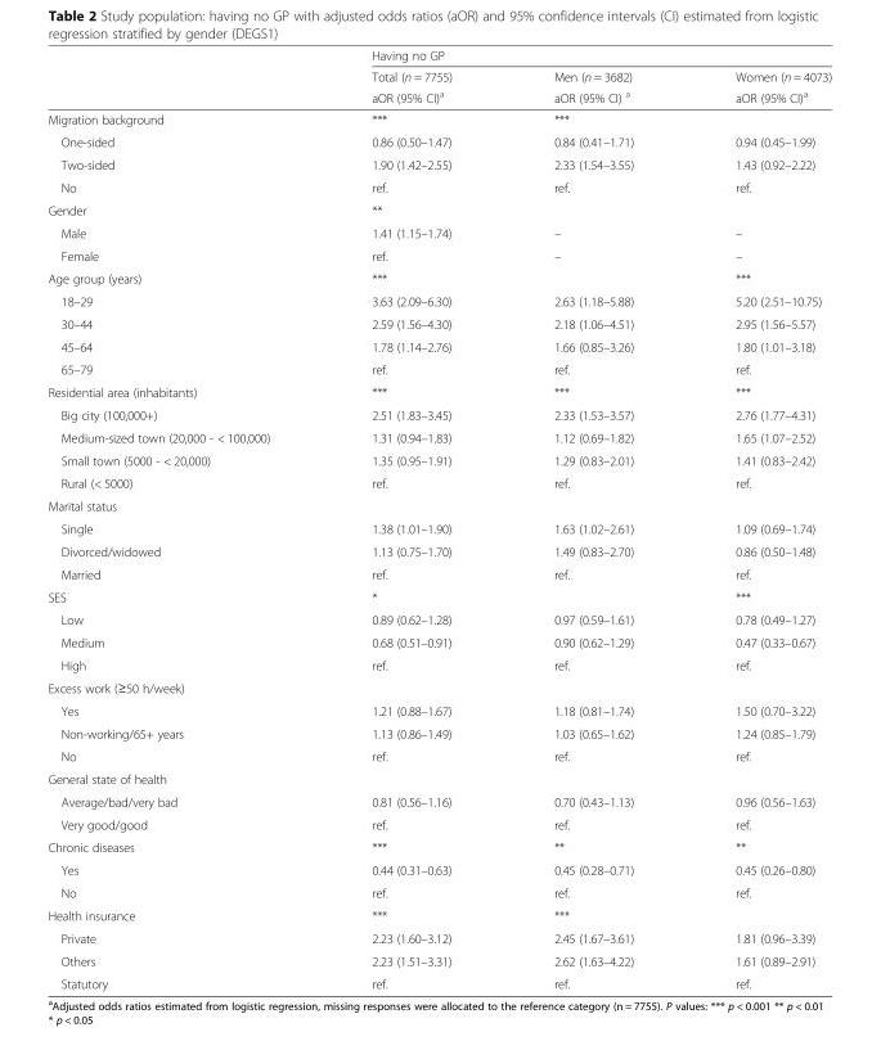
<table><thead><tr><td rowspan="3"></td><td colspan="3">Having no GP</td></tr><tr><td rowspan="2">Total (n = 7755) aOR (95% CI)<sup>a</sup></td><td rowspan="2">Men (n = 3682) aOR (95% CI) <sup>a</sup></td><td rowspan="2">Women (n = 4073) aOR (95% CI)<sup>a</sup></td></tr><tr></tr></thead><tbody><tr><td>Migration background</td><td>***</td><td>***</td><td></td></tr><tr><td>One-sided</td><td>0.86 (0.50–1.47)</td><td>0.84 (0.41–1.71)</td><td>0.94 (0.45–1.99)</td></tr><tr><td>Two-sided</td><td>1.90 (1.42–2.55)</td><td>2.33 (1.54–3.55)</td><td>1.43 (0.92–2.22)</td></tr><tr><td>No</td><td>ref.</td><td>ref.</td><td>ref.</td></tr><tr><td>Gender</td><td>**</td><td></td><td></td></tr><tr><td>Male</td><td>1.41 (1.15–1.74)</td><td>–</td><td>–</td></tr><tr><td>Female</td><td>ref.</td><td>–</td><td>–</td></tr><tr><td>Age group (years)</td><td>***</td><td></td><td>***</td></tr><tr><td>18–29</td><td>3.63 (2.09–6.30)</td><td>2.63 (1.18–5.88)</td><td>5.20 (2.51–10.75)</td></tr><tr><td>30–44</td><td>2.59 (1.56–4.30)</td><td>2.18 (1.06–4.51)</td><td>2.95 (1.56–5.57)</td></tr><tr><td>45–64</td><td>1.78 (1.14–2.76)</td><td>1.66 (0.85–3.26)</td><td>1.80 (1.01–3.18)</td></tr><tr><td>65–79</td><td>ref.</td><td>ref.</td><td>ref.</td></tr><tr><td>Residential area (inhabitants)</td><td>***</td><td>***</td><td>***</td></tr><tr><td>Big city (100,000+)</td><td>2.51 (1.83–3.45)</td><td>2.33 (1.53–3.57)</td><td>2.76 (1.77–4.31)</td></tr><tr><td>Medium-sized town (20,000 - &lt; 100,000)</td><td>1.31 (0.94–1.83)</td><td>1.12 (0.69–1.82)</td><td>1.65 (1.07–2.52)</td></tr><tr><td>Small town (5000 - &lt; 20,000)</td><td>1.35 (0.95–1.91)</td><td>1.29 (0.83–2.01)</td><td>1.41 (0.83–2.42)</td></tr><tr><td>Rural (&lt; 5000)</td><td>ref.</td><td>ref.</td><td>ref.</td></tr><tr><td colspan="4">Marital status</td></tr><tr><td>Single</td><td>1.38 (1.01–1.90)</td><td>1.63 (1.02–2.61)</td><td>1.09 (0.69–1.74)</td></tr><tr><td>Divorced/widowed</td><td>1.13 (0.75–1.70)</td><td>1.49 (0.83–2.70)</td><td>0.86 (0.50–1.48)</td></tr><tr><td>Married</td><td>ref.</td><td>ref.</td><td>ref.</td></tr><tr><td>SES</td><td>*</td><td></td><td>***</td></tr><tr><td>Low</td><td>0.89 (0.62–1.28)</td><td>0.97 (0.59–1.61)</td><td>0.78 (0.49–1.27)</td></tr><tr><td>Medium</td><td>0.68 (0.51–0.91)</td><td>0.90 (0.62–1.29)</td><td>0.47 (0.33–0.67)</td></tr><tr><td>High</td><td>ref.</td><td>ref.</td><td>ref.</td></tr><tr><td colspan="4">Excess work (≥50 h/week)</td></tr><tr><td>Yes</td><td>1.21 (0.88–1.67)</td><td>1.18 (0.81–1.74)</td><td>1.50 (0.70–3.22)</td></tr><tr><td>Non-working/65+ years</td><td>1.13 (0.86–1.49)</td><td>1.03 (0.65–1.62)</td><td>1.24 (0.85–1.79)</td></tr><tr><td>No</td><td>ref.</td><td>ref.</td><td>ref.</td></tr><tr><td colspan="4">General state of health</td></tr><tr><td>Average/bad/very bad</td><td>0.81 (0.56–1.16)</td><td>0.70 (0.43–1.13)</td><td>0.96 (0.56–1.63)</td></tr><tr><td>Very good/good</td><td>ref.</td><td>ref.</td><td>ref.</td></tr><tr><td>Chronic diseases</td><td>***</td><td>**</td><td>**</td></tr><tr><td>Yes</td><td>0.44 (0.31–0.63)</td><td>0.45 (0.28–0.71)</td><td>0.45 (0.26–0.80)</td></tr><tr><td>No</td><td>ref.</td><td>ref.</td><td>ref.</td></tr><tr><td>Health insurance</td><td>***</td><td>***</td><td></td></tr><tr><td>Private</td><td>2.23 (1.60–3.12)</td><td>2.45 (1.67–3.61)</td><td>1.81 (0.96–3.39)</td></tr><tr><td>Others</td><td>2.23 (1.51–3.31)</td><td>2.62 (1.63–4.22)</td><td>1.61 (0.89–2.91)</td></tr><tr><td>Statutory</td><td>ref.</td><td>ref.</td><td>ref.</td></tr></tbody></table>